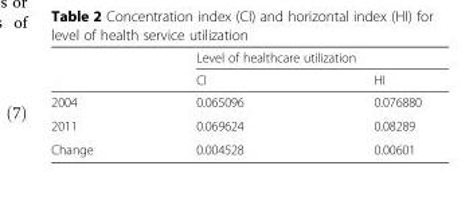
<table><thead><tr><td rowspan="2"></td><td colspan="2">Level of healthcare utilization</td></tr><tr><td>CI</td><td>HI</td></tr></thead><tbody><tr><td>2004</td><td>0.065096</td><td>0.076880</td></tr><tr><td>2011</td><td>0.069624</td><td>0.08289</td></tr><tr><td>Change</td><td>0.004528</td><td>0.00601</td></tr></tbody></table>